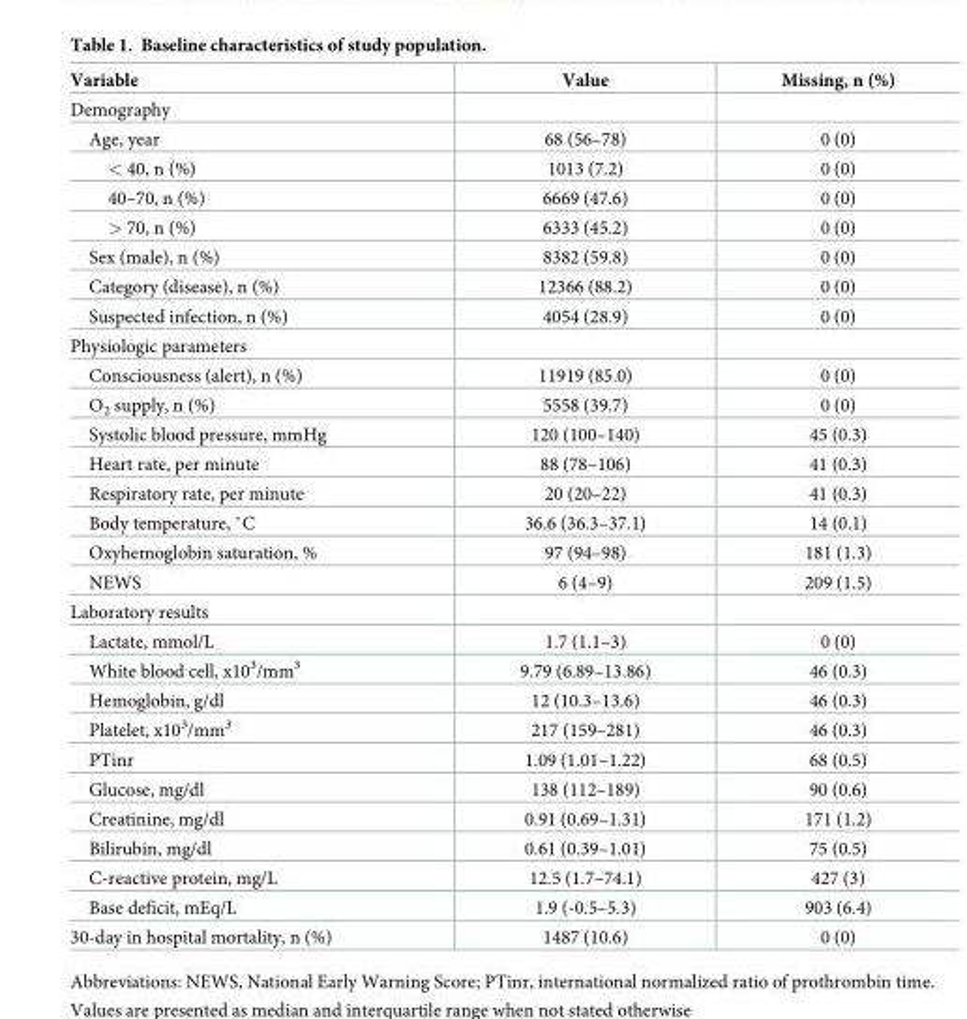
<table><thead><tr><td>Variable</td><td>Value</td><td>Missing, n (%)</td></tr></thead><tbody><tr><td colspan="3">Demography</td></tr><tr><td>Age, year</td><td>68 (56–78)</td><td>0 (0)</td></tr><tr><td>&lt; 40, n (%)</td><td>1013 (7.2)</td><td>0 (0)</td></tr><tr><td>40–70, n (%)</td><td>6669 (47.6)</td><td>0 (0)</td></tr><tr><td>&gt; 70, n (%)</td><td>6333 (45.2)</td><td>0 (0)</td></tr><tr><td>Sex (male), n (%)</td><td>8382 (59.8)</td><td>0 (0)</td></tr><tr><td>Category (disease), n (%)</td><td>12366 (88.2)</td><td>0 (0)</td></tr><tr><td>Suspected infection, n (%)</td><td>4054 (28.9)</td><td>0 (0)</td></tr><tr><td colspan="3">Physiologic parameters</td></tr><tr><td>Consciousness (alert), n (%)</td><td>11919 (85.0)</td><td>0 (0)</td></tr><tr><td>O<sub>2</sub> supply, n (%)</td><td>5558 (39.7)</td><td>0 (0)</td></tr><tr><td>Systolic blood pressure, mmHg</td><td>120 (100–140)</td><td>45 (0.3)</td></tr><tr><td>Heart rate, per minute</td><td>88 (78–106)</td><td>41 (0.3)</td></tr><tr><td>Respiratory rate, per minute</td><td>20 (20–22)</td><td>41 (0.3)</td></tr><tr><td>Body temperature, ˚C</td><td>36.6 (36.3–37.1)</td><td>14 (0.1)</td></tr><tr><td>Oxyhemoglobin saturation, %</td><td>97 (94–98)</td><td>181 (1.3)</td></tr><tr><td>NEWS</td><td>6 (4–9)</td><td>209 (1.5)</td></tr><tr><td colspan="3">Laboratory results</td></tr><tr><td>Lactate, mmol/L</td><td>1.7 (1.1–3)</td><td>0 (0)</td></tr><tr><td>White blood cell, x10<sup>3</sup>/mm<sup>3</sup></td><td>9.79 (6.89–13.86)</td><td>46 (0.3)</td></tr><tr><td>Hemoglobin, g/dl</td><td>12 (10.3–13.6)</td><td>46 (0.3)</td></tr><tr><td>Platelet, x10<sup>3</sup>/mm<sup>3</sup></td><td>217 (159–281)</td><td>46 (0.3)</td></tr><tr><td>PTinr</td><td>1.09 (1.01–1.22)</td><td>68 (0.5)</td></tr><tr><td>Glucose, mg/dl</td><td>138 (112–189)</td><td>90 (0.6)</td></tr><tr><td>Creatinine, mg/dl</td><td>0.91 (0.69–1.31)</td><td>171 (1.2)</td></tr><tr><td>Bilirubin, mg/dl</td><td>0.61 (0.39–1.01)</td><td>75 (0.5)</td></tr><tr><td>C-reactive protein, mg/L</td><td>12.5 (1.7–74.1)</td><td>427 (3)</td></tr><tr><td>Base deficit, mEq/L</td><td>1.9 (-0.5–5.3)</td><td>903 (6.4)</td></tr><tr><td>30-day in hospital mortality, n (%)</td><td>1487 (10.6)</td><td>0 (0)</td></tr></tbody></table>